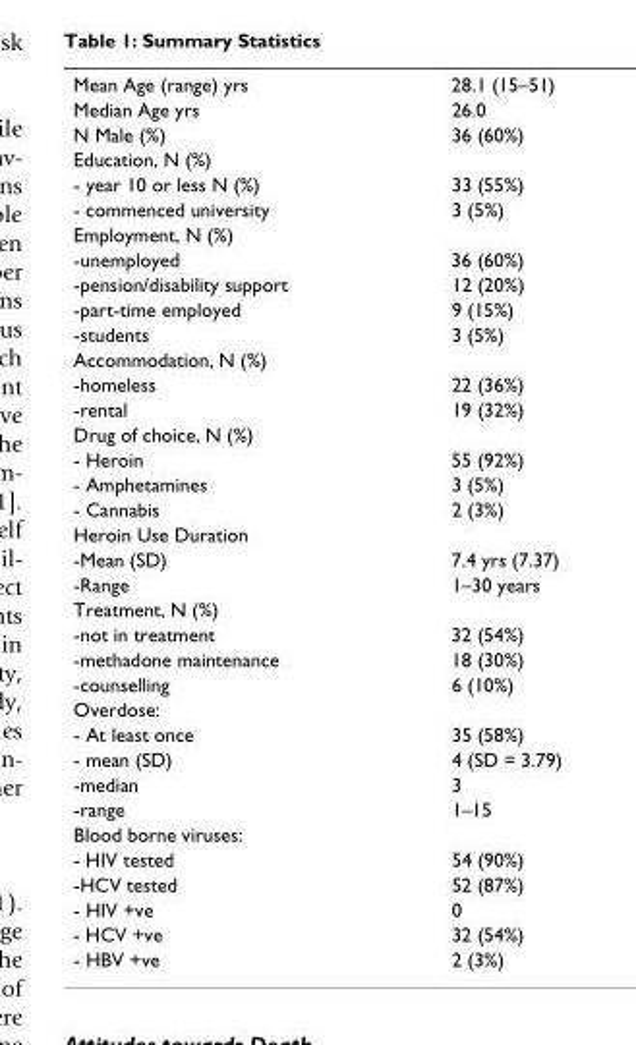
<table><tbody><tr><td>Mean Age (range) yrs</td><td>28.1 (15–51)</td></tr><tr><td>Median Age yrs</td><td>26.0</td></tr><tr><td>N Male (%)</td><td>36 (60%)</td></tr><tr><td colspan="2">Education, N (%)</td></tr><tr><td>- year 10 or less N (%)</td><td>33 (55%)</td></tr><tr><td>- commenced university</td><td>3 (5%)</td></tr><tr><td colspan="2">Employment, N (%)</td></tr><tr><td>-unemployed</td><td>36 (60%)</td></tr><tr><td>-pension/disability support</td><td>12 (20%)</td></tr><tr><td>-part-time employed</td><td>9 (15%)</td></tr><tr><td>-students</td><td>3 (5%)</td></tr><tr><td colspan="2">Accommodation, N (%)</td></tr><tr><td>-homeless</td><td>22 (36%)</td></tr><tr><td>-rental</td><td>19 (32%)</td></tr><tr><td colspan="2">Drug of choice, N (%)</td></tr><tr><td>- Heroin</td><td>55 (92%)</td></tr><tr><td>- Amphetamines</td><td>3 (5%)</td></tr><tr><td>- Cannabis</td><td>2 (3%)</td></tr><tr><td colspan="2">Heroin Use Duration</td></tr><tr><td>-Mean (SD)</td><td>7.4 yrs (7.37)</td></tr><tr><td>-Range</td><td>1–30 years</td></tr><tr><td colspan="2">Treatment, N (%)</td></tr><tr><td>-not in treatment</td><td>32 (54%)</td></tr><tr><td>-methadone maintenance</td><td>18 (30%)</td></tr><tr><td>-counselling</td><td>6 (10%)</td></tr><tr><td colspan="2">Overdose:</td></tr><tr><td>- At least once</td><td>35 (58%)</td></tr><tr><td>- mean (SD)</td><td>4 (SD = 3.79)</td></tr><tr><td>-median</td><td>3</td></tr><tr><td>-range</td><td>1–15</td></tr><tr><td colspan="2">Blood borne viruses:</td></tr><tr><td>- HIV tested</td><td>54 (90%)</td></tr><tr><td>-HCV tested</td><td>52 (87%)</td></tr><tr><td>- HIV +ve</td><td>0</td></tr><tr><td>- HCV +ve</td><td>32 (54%)</td></tr><tr><td>- HBV +ve</td><td>2 (3%)</td></tr></tbody></table>